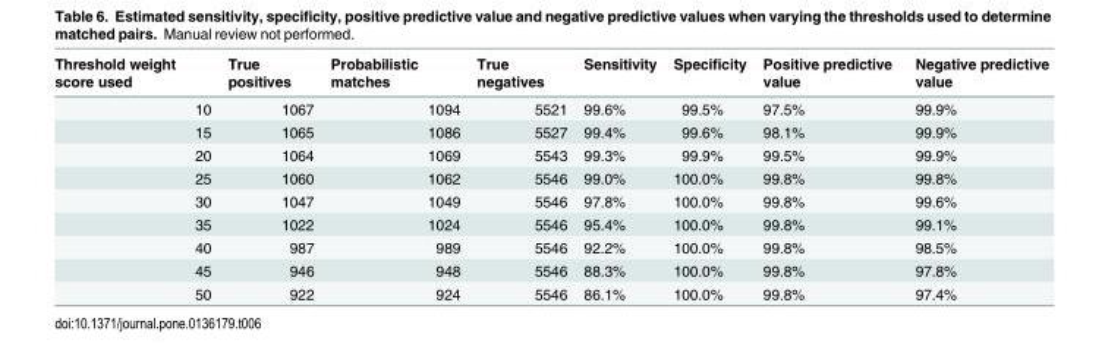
<table><thead><tr><td>Threshold weight score used</td><td>True positives</td><td>Probabilistic matches</td><td>True negatives</td><td>Sensitivity</td><td>Specificity</td><td>Positive predictive value</td><td>Negative predictive value</td></tr></thead><tbody><tr><td>10</td><td>1067</td><td>1094</td><td>5521</td><td>99.6%</td><td>99.5%</td><td>97.5%</td><td>99.9%</td></tr><tr><td>15</td><td>1065</td><td>1086</td><td>5527</td><td>99.4%</td><td>99.6%</td><td>98.1%</td><td>99.9%</td></tr><tr><td>20</td><td>1064</td><td>1069</td><td>5543</td><td>99.3%</td><td>99.9%</td><td>99.5%</td><td>99.9%</td></tr><tr><td>25</td><td>1060</td><td>1062</td><td>5546</td><td>99.0%</td><td>100.0%</td><td>99.8%</td><td>99.8%</td></tr><tr><td>30</td><td>1047</td><td>1049</td><td>5546</td><td>97.8%</td><td>100.0%</td><td>99.8%</td><td>99.6%</td></tr><tr><td>35</td><td>1022</td><td>1024</td><td>5546</td><td>95.4%</td><td>100.0%</td><td>99.8%</td><td>99.1%</td></tr><tr><td>40</td><td>987</td><td>989</td><td>5546</td><td>92.2%</td><td>100.0%</td><td>99.8%</td><td>98.5%</td></tr><tr><td>45</td><td>946</td><td>948</td><td>5546</td><td>88.3%</td><td>100.0%</td><td>99.8%</td><td>97.8%</td></tr><tr><td>50</td><td>922</td><td>924</td><td>5546</td><td>86.1%</td><td>100.0%</td><td>99.8%</td><td>97.4%</td></tr></tbody></table>